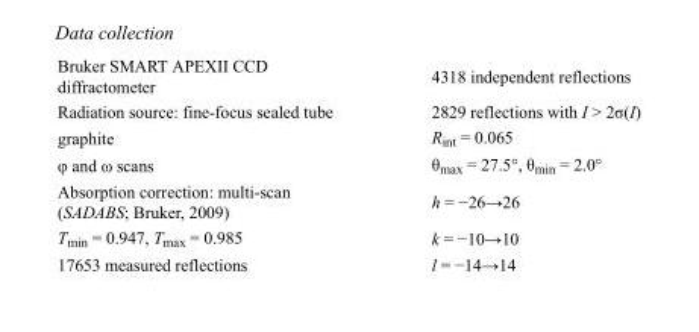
<table><tbody><tr><td>Bruker SMART APEXII CCD diffractometer</td><td>4318 independent reflections</td></tr><tr><td>Radiation source: fine-focus sealed tube</td><td>2829 reflections with I &gt; 2σ(I)</td></tr><tr><td>graphite</td><td>R<sub>int</sub> = 0.065</td></tr><tr><td>φ and ω scans</td><td>θ<sub>max</sub> = 27.5°, θ<sub>min</sub> = 2.0°</td></tr><tr><td>Absorption correction: multi-scan (SADABS; Bruker, 2009)</td><td>h = −26→26</td></tr><tr><td>T<sub>min</sub> = 0.947, T<sub>max</sub> = 0.985</td><td>k = −10→10</td></tr><tr><td>17653 measured reflections</td><td>l = −14→14</td></tr></tbody></table>